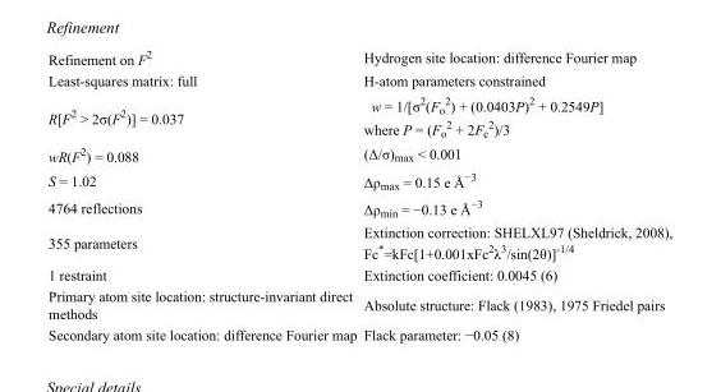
<table><tbody><tr><td>Refinement on F<sup>2</sup></td><td>Hydrogen site location: difference Fourier map</td></tr><tr><td>Least-squares matrix: full</td><td>H-atom parameters constrained</td></tr><tr><td>R[F<sup>2</sup> &gt; 2σ(F<sup>2</sup>)] = 0.037</td><td>w = 1/[σ<sup>2</sup>(F<sub>o</sub> <sup>2</sup>) + (0.0403P)<sup>2</sup> + 0.2549P] where P = (F<sub>o</sub> <sup>2</sup> + 2F<sub>c</sub> <sup>2</sup>)/3</td></tr><tr><td>wR(F<sup>2</sup>) = 0.088</td><td>(Δ/σ)<sub>max</sub> &lt; 0.001</td></tr><tr><td>S = 1.02</td><td>Δρ<sub>max</sub> = 0.15 e Å<sup>−3</sup></td></tr><tr><td>4764 reflections</td><td>Δρ<sub>min</sub> = −0.13 e Å<sup>−3</sup></td></tr><tr><td>355 parameters</td><td>Extinction correction: SHELXL97 (Sheldrick, 2008), Fc*=kFc[1+0.001xFc<sup>2</sup>λ<sup>3</sup>/sin(2θ)]<sup>-1/4</sup></td></tr><tr><td>1 restraint</td><td>Extinction coefficient: 0.0045 (6)</td></tr><tr><td>Primary atom site location: structure-invariant direct methods</td><td>Absolute structure: Flack (1983), 1975 Friedel pairs</td></tr><tr><td>Secondary atom site location: difference Fourier map</td><td>Flack parameter: −0.05 (8)</td></tr></tbody></table>